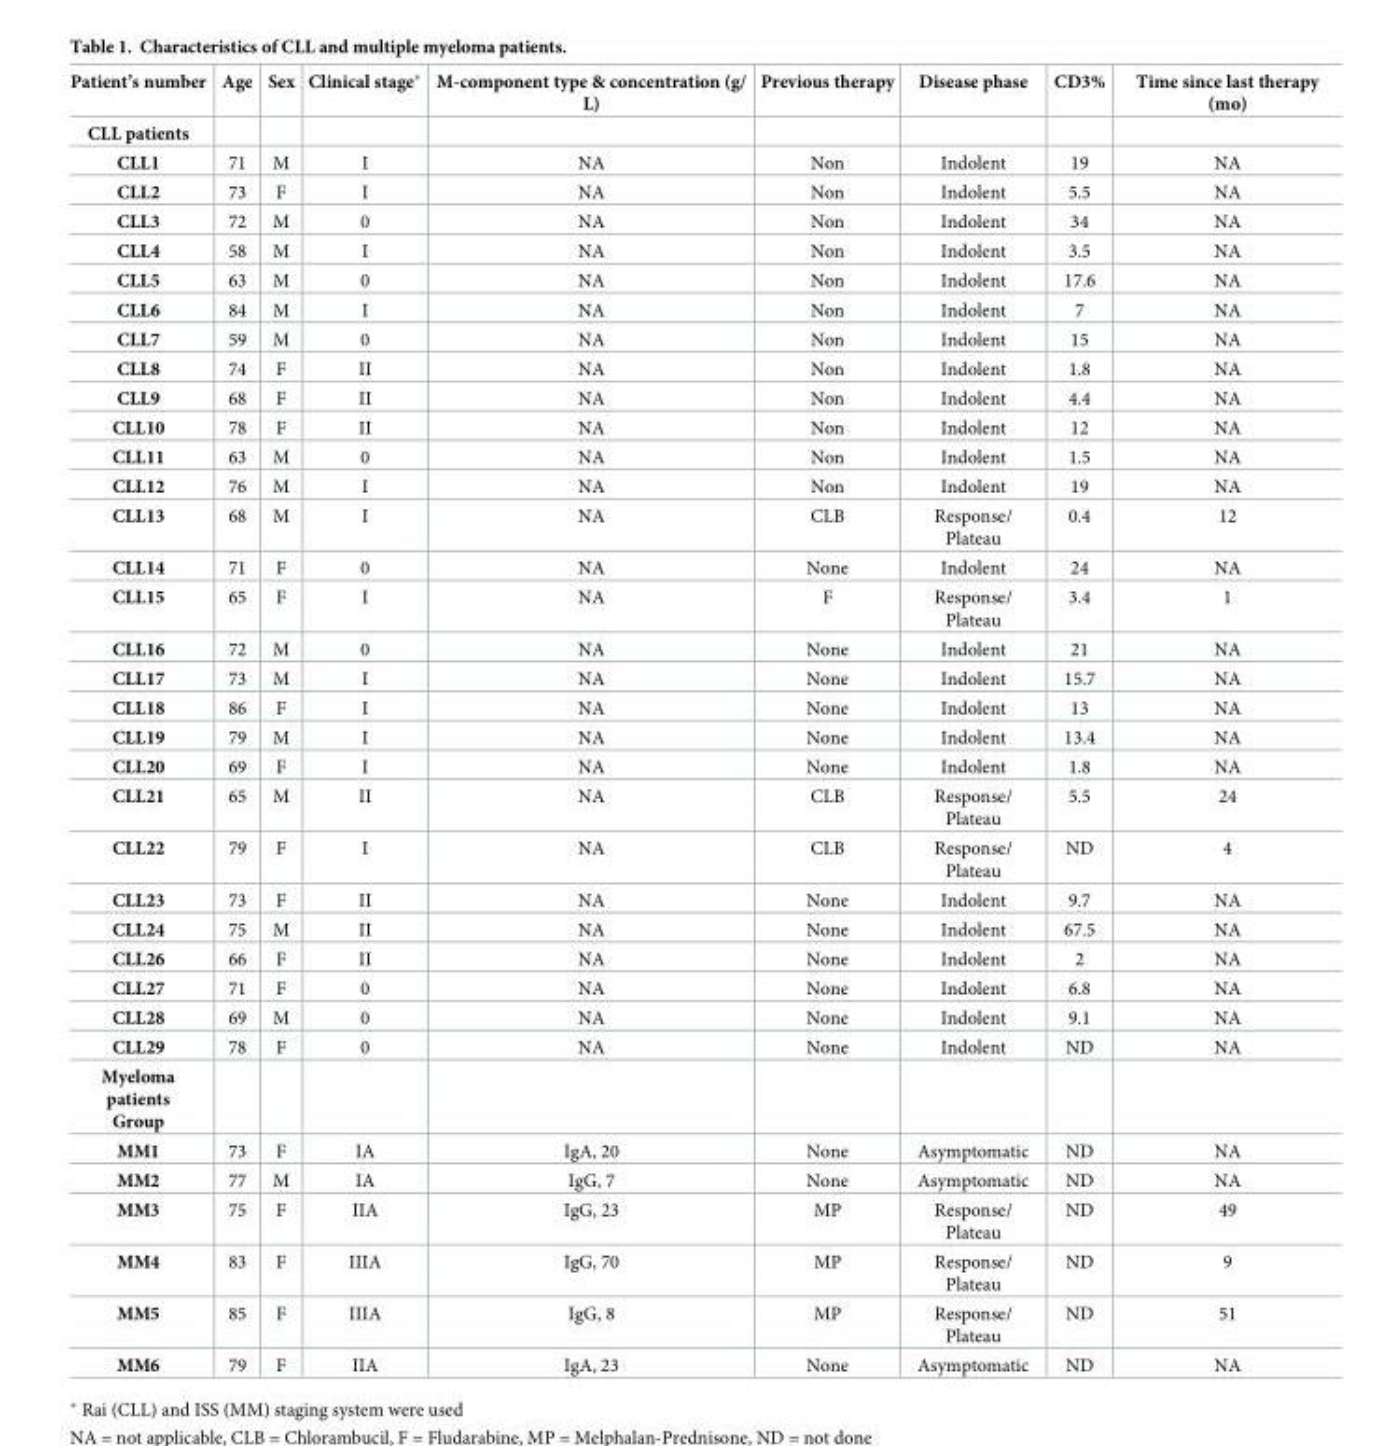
<table><thead><tr><td>Patient’s number</td><td>Age</td><td>Sex</td><td>Clinical stage*</td><td>M-component type &amp; concentration (g/ L)</td><td>Previous therapy</td><td>Disease phase</td><td>CD3%</td><td>Time since last therapy (mo)</td></tr></thead><tbody><tr><td colspan="9">CLL patients</td></tr><tr><td>CLL1</td><td>71</td><td>M</td><td>I</td><td>NA</td><td>Non</td><td>Indolent</td><td>19</td><td>NA</td></tr><tr><td>CLL2</td><td>73</td><td>F</td><td>I</td><td>NA</td><td>Non</td><td>Indolent</td><td>5.5</td><td>NA</td></tr><tr><td>CLL3</td><td>72</td><td>M</td><td>0</td><td>NA</td><td>Non</td><td>Indolent</td><td>34</td><td>NA</td></tr><tr><td>CLL4</td><td>58</td><td>M</td><td>I</td><td>NA</td><td>Non</td><td>Indolent</td><td>3.5</td><td>NA</td></tr><tr><td>CLL5</td><td>63</td><td>M</td><td>0</td><td>NA</td><td>Non</td><td>Indolent</td><td>17.6</td><td>NA</td></tr><tr><td>CLL6</td><td>84</td><td>M</td><td>I</td><td>NA</td><td>Non</td><td>Indolent</td><td>7</td><td>NA</td></tr><tr><td>CLL7</td><td>59</td><td>M</td><td>0</td><td>NA</td><td>Non</td><td>Indolent</td><td>15</td><td>NA</td></tr><tr><td>CLL8</td><td>74</td><td>F</td><td>II</td><td>NA</td><td>Non</td><td>Indolent</td><td>1.8</td><td>NA</td></tr><tr><td>CLL9</td><td>68</td><td>F</td><td>II</td><td>NA</td><td>Non</td><td>Indolent</td><td>4.4</td><td>NA</td></tr><tr><td>CLL10</td><td>78</td><td>F</td><td>II</td><td>NA</td><td>Non</td><td>Indolent</td><td>12</td><td>NA</td></tr><tr><td>CLL11</td><td>63</td><td>M</td><td>0</td><td>NA</td><td>Non</td><td>Indolent</td><td>1.5</td><td>NA</td></tr><tr><td>CLL12</td><td>76</td><td>M</td><td>I</td><td>NA</td><td>Non</td><td>Indolent</td><td>19</td><td>NA</td></tr><tr><td>CLL13</td><td>68</td><td>M</td><td>I</td><td>NA</td><td>CLB</td><td>Response/ Plateau</td><td>0.4</td><td>12</td></tr><tr><td>CLL14</td><td>71</td><td>F</td><td>0</td><td>NA</td><td>None</td><td>Indolent</td><td>24</td><td>NA</td></tr><tr><td>CLL15</td><td>65</td><td>F</td><td>I</td><td>NA</td><td>F</td><td>Response/ Plateau</td><td>3.4</td><td>1</td></tr><tr><td>CLL16</td><td>72</td><td>M</td><td>0</td><td>NA</td><td>None</td><td>Indolent</td><td>21</td><td>NA</td></tr><tr><td>CLL17</td><td>73</td><td>M</td><td>I</td><td>NA</td><td>None</td><td>Indolent</td><td>15.7</td><td>NA</td></tr><tr><td>CLL18</td><td>86</td><td>F</td><td>I</td><td>NA</td><td>None</td><td>Indolent</td><td>13</td><td>NA</td></tr><tr><td>CLL19</td><td>79</td><td>M</td><td>I</td><td>NA</td><td>None</td><td>Indolent</td><td>13.4</td><td>NA</td></tr><tr><td>CLL20</td><td>69</td><td>F</td><td>I</td><td>NA</td><td>None</td><td>Indolent</td><td>1.8</td><td>NA</td></tr><tr><td>CLL21</td><td>65</td><td>M</td><td>II</td><td>NA</td><td>CLB</td><td>Response/ Plateau</td><td>5.5</td><td>24</td></tr><tr><td>CLL22</td><td>79</td><td>F</td><td>I</td><td>NA</td><td>CLB</td><td>Response/ Plateau</td><td>ND</td><td>4</td></tr><tr><td>CLL23</td><td>73</td><td>F</td><td>II</td><td>NA</td><td>None</td><td>Indolent</td><td>9.7</td><td>NA</td></tr><tr><td>CLL24</td><td>75</td><td>M</td><td>II</td><td>NA</td><td>None</td><td>Indolent</td><td>67.5</td><td>NA</td></tr><tr><td>CLL26</td><td>66</td><td>F</td><td>II</td><td>NA</td><td>None</td><td>Indolent</td><td>2</td><td>NA</td></tr><tr><td>CLL27</td><td>71</td><td>F</td><td>0</td><td>NA</td><td>None</td><td>Indolent</td><td>6.8</td><td>NA</td></tr><tr><td>CLL28</td><td>69</td><td>M</td><td>0</td><td>NA</td><td>None</td><td>Indolent</td><td>9.1</td><td>NA</td></tr><tr><td>CLL29</td><td>78</td><td>F</td><td>0</td><td>NA</td><td>None</td><td>Indolent</td><td>ND</td><td>NA</td></tr><tr><td colspan="9">Myeloma patients Group</td></tr><tr><td>MM1</td><td>73</td><td>F</td><td>IA</td><td>IgA, 20</td><td>None</td><td>Asymptomatic</td><td>ND</td><td>NA</td></tr><tr><td>MM2</td><td>77</td><td>M</td><td>IA</td><td>IgG, 7</td><td>None</td><td>Asymptomatic</td><td>ND</td><td>NA</td></tr><tr><td>MM3</td><td>75</td><td>F</td><td>IIA</td><td>IgG, 23</td><td>MP</td><td>Response/ Plateau</td><td>ND</td><td>49</td></tr><tr><td>MM4</td><td>83</td><td>F</td><td>IIIA</td><td>IgG, 70</td><td>MP</td><td>Response/ Plateau</td><td>ND</td><td>9</td></tr><tr><td>MM5</td><td>85</td><td>F</td><td>IIIA</td><td>IgG, 8</td><td>MP</td><td>Response/ Plateau</td><td>ND</td><td>51</td></tr><tr><td>MM6</td><td>79</td><td>F</td><td>IIA</td><td>IgA, 23</td><td>None</td><td>Asymptomatic</td><td>ND</td><td>NA</td></tr></tbody></table>